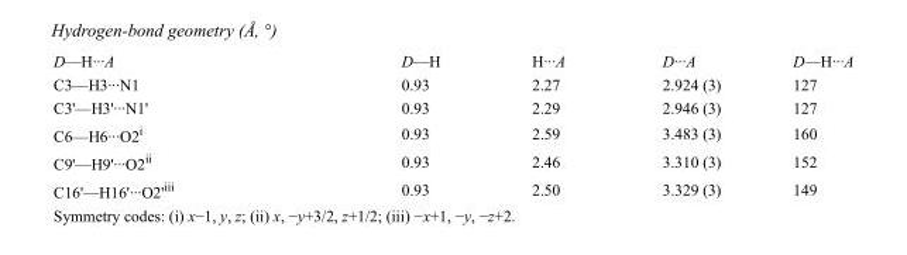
<table><tbody><tr><td>D—H···A</td><td>D—H</td><td>H···A</td><td>D···A</td><td>D—H···A</td></tr><tr><td>C3—H3···N1</td><td>0.93</td><td>2.27</td><td>2.924 (3)</td><td>127</td></tr><tr><td>C3&#x27;—H3&#x27;···N1&#x27;</td><td>0.93</td><td>2.29</td><td>2.946 (3)</td><td>127</td></tr><tr><td>C6—H6···O2<sup>i</sup></td><td>0.93</td><td>2.59</td><td>3.483 (3)</td><td>160</td></tr><tr><td>C9&#x27;—H9&#x27;···O2<sup>ii</sup></td><td>0.93</td><td>2.46</td><td>3.310 (3)</td><td>152</td></tr><tr><td>C16&#x27;—H16&#x27;···O2&#x27;<sup>iii</sup></td><td>0.93</td><td>2.50</td><td>3.329 (3)</td><td>149</td></tr></tbody></table>